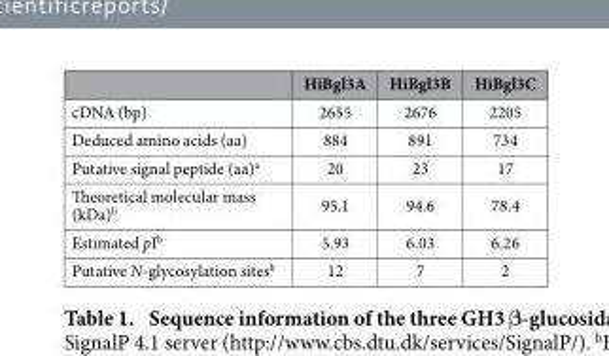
<table><thead><tr><td></td><td>HiBgl3A</td><td>HiBgl3B</td><td>HiBgl3C</td></tr></thead><tbody><tr><td>cDNA (bp)</td><td>2655</td><td>2676</td><td>2205</td></tr><tr><td>Deduced amino acids (aa)</td><td>884</td><td>891</td><td>734</td></tr><tr><td>Putative signal peptide (aa)<sup>a</sup></td><td>20</td><td>23</td><td>17</td></tr><tr><td>Theoretical molecular mass (kDa)<sup>b</sup></td><td>95.1</td><td>94.6</td><td>78.4</td></tr><tr><td>Estimated pI<sup>b</sup></td><td>5.93</td><td>6.03</td><td>6.26</td></tr><tr><td>Putative N-glycosylation sites<sup>b</sup></td><td>12</td><td>7</td><td>2</td></tr></tbody></table>